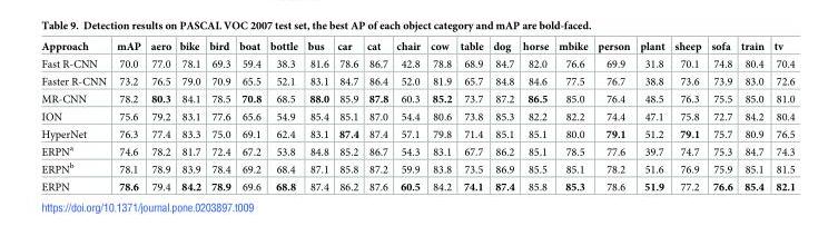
<table><thead><tr><td>Approach</td><td>mAP</td><td>aero</td><td>bike</td><td>bird</td><td>boat</td><td>bottle</td><td>bus</td><td>car</td><td>cat</td><td>chair</td><td>cow</td><td>table</td><td>dog</td><td>horse</td><td>mbike</td><td>person</td><td>plant</td><td>sheep</td><td>sofa</td><td>train</td><td>tv</td></tr></thead><tbody><tr><td>Fast R-CNN</td><td>70.0</td><td>77.0</td><td>78.1</td><td>69.3</td><td>59.4</td><td>38.3</td><td>81.6</td><td>78.6</td><td>86.7</td><td>42.8</td><td>78.8</td><td>68.9</td><td>84.7</td><td>82.0</td><td>76.6</td><td>69.9</td><td>31.8</td><td>70.1</td><td>74.8</td><td>80.4</td><td>70.4</td></tr><tr><td>Faster R-CNN</td><td>73.2</td><td>76.5</td><td>79.0</td><td>70.9</td><td>65.5</td><td>52.1</td><td>83.1</td><td>84.7</td><td>86.4</td><td>52.0</td><td>81.9</td><td>65.7</td><td>84.8</td><td>84.6</td><td>77.5</td><td>76.7</td><td>38.8</td><td>73.6</td><td>73.9</td><td>83.0</td><td>72.6</td></tr><tr><td>MR-CNN</td><td>78.2</td><td>80.3</td><td>84.1</td><td>78.5</td><td>70.8</td><td>68.5</td><td>88.0</td><td>85.9</td><td>87.8</td><td>60.3</td><td>85.2</td><td>73.7</td><td>87.2</td><td>86.5</td><td>85.0</td><td>76.4</td><td>48.5</td><td>76.3</td><td>75.5</td><td>85.0</td><td>81.0</td></tr><tr><td>ION</td><td>75.6</td><td>79.2</td><td>83.1</td><td>77.6</td><td>65.6</td><td>54.9</td><td>85.4</td><td>85.1</td><td>87.0</td><td>54.4</td><td>80.6</td><td>73.8</td><td>85.3</td><td>82.2</td><td>82.2</td><td>74.4</td><td>47.1</td><td>75.8</td><td>72.7</td><td>84.2</td><td>80.4</td></tr><tr><td>HyperNet</td><td>76.3</td><td>77.4</td><td>83.3</td><td>75.0</td><td>69.1</td><td>62.4</td><td>83.1</td><td>87.4</td><td>87.4</td><td>57.1</td><td>79.8</td><td>71.4</td><td>85.1</td><td>85.1</td><td>80.0</td><td>79.1</td><td>51.2</td><td>79.1</td><td>75.7</td><td>80.9</td><td>76.5</td></tr><tr><td>ERPN<sup>a</sup></td><td>74.6</td><td>78.2</td><td>81.7</td><td>72.4</td><td>67.2</td><td>53.8</td><td>84.8</td><td>85.2</td><td>86.7</td><td>54.3</td><td>83.1</td><td>67.7</td><td>86.2</td><td>85.1</td><td>78.5</td><td>77.6</td><td>39.7</td><td>74.7</td><td>75.3</td><td>84.7</td><td>74.3</td></tr><tr><td>ERPN<sup>b</sup></td><td>78.1</td><td>78.9</td><td>83.9</td><td>78.4</td><td>69.2</td><td>68.4</td><td>87.1</td><td>85.8</td><td>87.2</td><td>59.9</td><td>83.8</td><td>73.5</td><td>86.9</td><td>85.5</td><td>85.1</td><td>78.2</td><td>51.6</td><td>76.9</td><td>75.9</td><td>85.1</td><td>81.5</td></tr><tr><td>ERPN</td><td>78.6</td><td>79.4</td><td>84.2</td><td>78.9</td><td>69.6</td><td>68.8</td><td>87.4</td><td>86.2</td><td>87.6</td><td>60.5</td><td>84.2</td><td>74.1</td><td>87.4</td><td>85.8</td><td>85.3</td><td>78.6</td><td>51.9</td><td>77.2</td><td>76.6</td><td>85.4</td><td>82.1</td></tr></tbody></table>